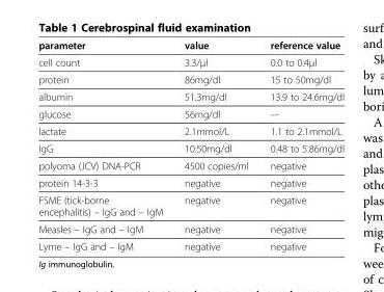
<table><thead><tr><td>parameter</td><td>value</td><td>reference value</td></tr></thead><tbody><tr><td>cell count</td><td>3.3/μl</td><td>0.0 to 0.4μl</td></tr><tr><td>protein</td><td>86mg/dl</td><td>15 to 50mg/dl</td></tr><tr><td>albumin</td><td>51.3mg/dl</td><td>13.9 to 24.6mg/dl</td></tr><tr><td>glucose</td><td>56mg/dl</td><td>–-</td></tr><tr><td>lactate</td><td>2.1mmol/L</td><td>1.1 to 2.1mmol/L</td></tr><tr><td>IgG</td><td>10.50mg/dl</td><td>0.48 to 5.86mg/dl</td></tr><tr><td>polyoma (JCV) DNA-PCR</td><td>4500 copies/ml</td><td>negative</td></tr><tr><td>protein 14-3-3</td><td>negative</td><td>negative</td></tr><tr><td>FSME (tick-borne encephalitis) – IgG and – IgM</td><td>negative</td><td>negative</td></tr><tr><td>Measles – IgG and – IgM</td><td>negative</td><td>negative</td></tr><tr><td>Lyme – IgG and – IgM</td><td>negative</td><td>negative</td></tr></tbody></table>